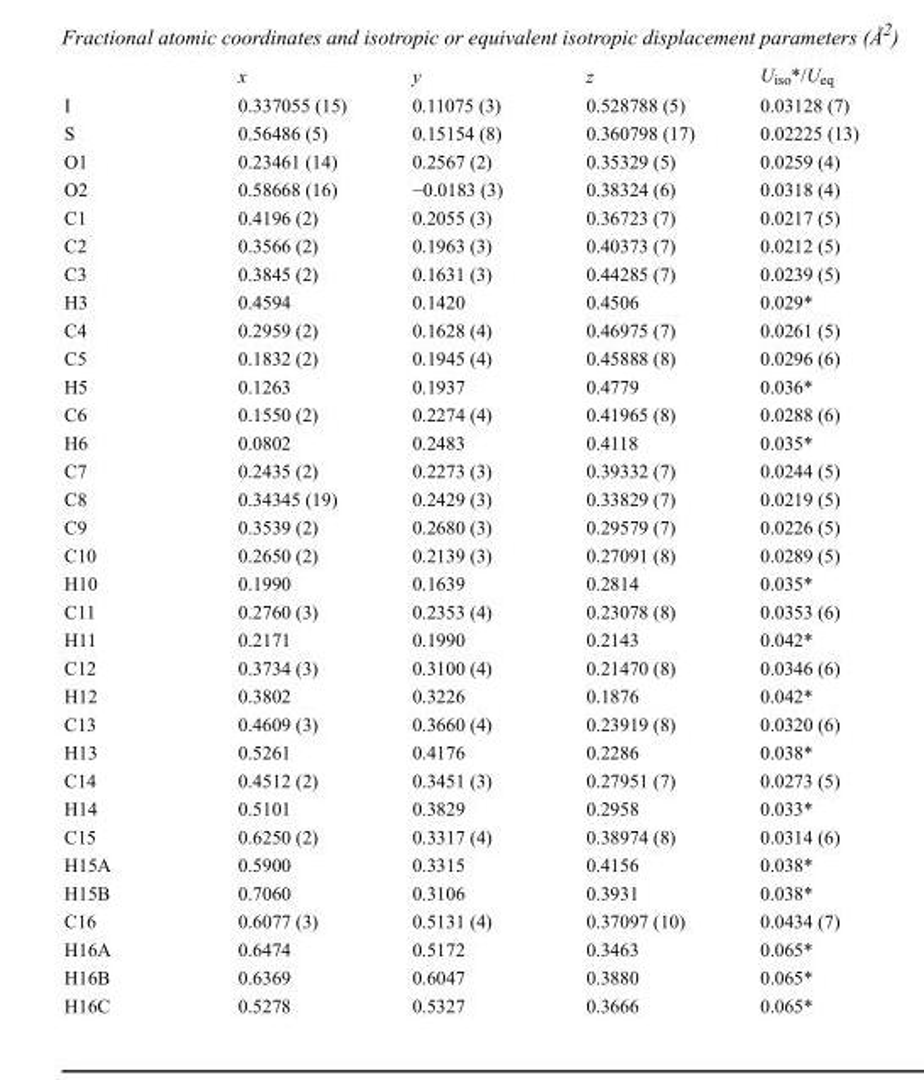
<table><thead><tr><td></td><td>x</td><td>y</td><td>z</td><td>U<sub>iso</sub>*/U<sub>eq</sub></td></tr></thead><tbody><tr><td>I</td><td>0.337055 (15)</td><td>0.11075 (3)</td><td>0.528788 (5)</td><td>0.03128 (7)</td></tr><tr><td>S</td><td>0.56486 (5)</td><td>0.15154 (8)</td><td>0.360798 (17)</td><td>0.02225 (13)</td></tr><tr><td>O1</td><td>0.23461 (14)</td><td>0.2567 (2)</td><td>0.35329 (5)</td><td>0.0259 (4)</td></tr><tr><td>O2</td><td>0.58668 (16)</td><td>−0.0183 (3)</td><td>0.38324 (6)</td><td>0.0318 (4)</td></tr><tr><td>C1</td><td>0.4196 (2)</td><td>0.2055 (3)</td><td>0.36723 (7)</td><td>0.0217 (5)</td></tr><tr><td>C2</td><td>0.3566 (2)</td><td>0.1963 (3)</td><td>0.40373 (7)</td><td>0.0212 (5)</td></tr><tr><td>C3</td><td>0.3845 (2)</td><td>0.1631 (3)</td><td>0.44285 (7)</td><td>0.0239 (5)</td></tr><tr><td>H3</td><td>0.4594</td><td>0.1420</td><td>0.4506</td><td>0.029*</td></tr><tr><td>C4</td><td>0.2959 (2)</td><td>0.1628 (4)</td><td>0.46975 (7)</td><td>0.0261 (5)</td></tr><tr><td>C5</td><td>0.1832 (2)</td><td>0.1945 (4)</td><td>0.45888 (8)</td><td>0.0296 (6)</td></tr><tr><td>H5</td><td>0.1263</td><td>0.1937</td><td>0.4779</td><td>0.036*</td></tr><tr><td>C6</td><td>0.1550 (2)</td><td>0.2274 (4)</td><td>0.41965 (8)</td><td>0.0288 (6)</td></tr><tr><td>H6</td><td>0.0802</td><td>0.2483</td><td>0.4118</td><td>0.035*</td></tr><tr><td>C7</td><td>0.2435 (2)</td><td>0.2273 (3)</td><td>0.39332 (7)</td><td>0.0244 (5)</td></tr><tr><td>C8</td><td>0.34345 (19)</td><td>0.2429 (3)</td><td>0.33829 (7)</td><td>0.0219 (5)</td></tr><tr><td>C9</td><td>0.3539 (2)</td><td>0.2680 (3)</td><td>0.29579 (7)</td><td>0.0226 (5)</td></tr><tr><td>C10</td><td>0.2650 (2)</td><td>0.2139 (3)</td><td>0.27091 (8)</td><td>0.0289 (5)</td></tr><tr><td>H10</td><td>0.1990</td><td>0.1639</td><td>0.2814</td><td>0.035*</td></tr><tr><td>C11</td><td>0.2760 (3)</td><td>0.2353 (4)</td><td>0.23078 (8)</td><td>0.0353 (6)</td></tr><tr><td>H11</td><td>0.2171</td><td>0.1990</td><td>0.2143</td><td>0.042*</td></tr><tr><td>C12</td><td>0.3734 (3)</td><td>0.3100 (4)</td><td>0.21470 (8)</td><td>0.0346 (6)</td></tr><tr><td>H12</td><td>0.3802</td><td>0.3226</td><td>0.1876</td><td>0.042*</td></tr><tr><td>C13</td><td>0.4609 (3)</td><td>0.3660 (4)</td><td>0.23919 (8)</td><td>0.0320 (6)</td></tr><tr><td>H13</td><td>0.5261</td><td>0.4176</td><td>0.2286</td><td>0.038*</td></tr><tr><td>C14</td><td>0.4512 (2)</td><td>0.3451 (3)</td><td>0.27951 (7)</td><td>0.0273 (5)</td></tr><tr><td>H14</td><td>0.5101</td><td>0.3829</td><td>0.2958</td><td>0.033*</td></tr><tr><td>C15</td><td>0.6250 (2)</td><td>0.3317 (4)</td><td>0.38974 (8)</td><td>0.0314 (6)</td></tr><tr><td>H15A</td><td>0.5900</td><td>0.3315</td><td>0.4156</td><td>0.038*</td></tr><tr><td>H15B</td><td>0.7060</td><td>0.3106</td><td>0.3931</td><td>0.038*</td></tr><tr><td>C16</td><td>0.6077 (3)</td><td>0.5131 (4)</td><td>0.37097 (10)</td><td>0.0434 (7)</td></tr><tr><td>H16A</td><td>0.6474</td><td>0.5172</td><td>0.3463</td><td>0.065*</td></tr><tr><td>H16B</td><td>0.6369</td><td>0.6047</td><td>0.3880</td><td>0.065*</td></tr><tr><td>H16C</td><td>0.5278</td><td>0.5327</td><td>0.3666</td><td>0.065*</td></tr></tbody></table>